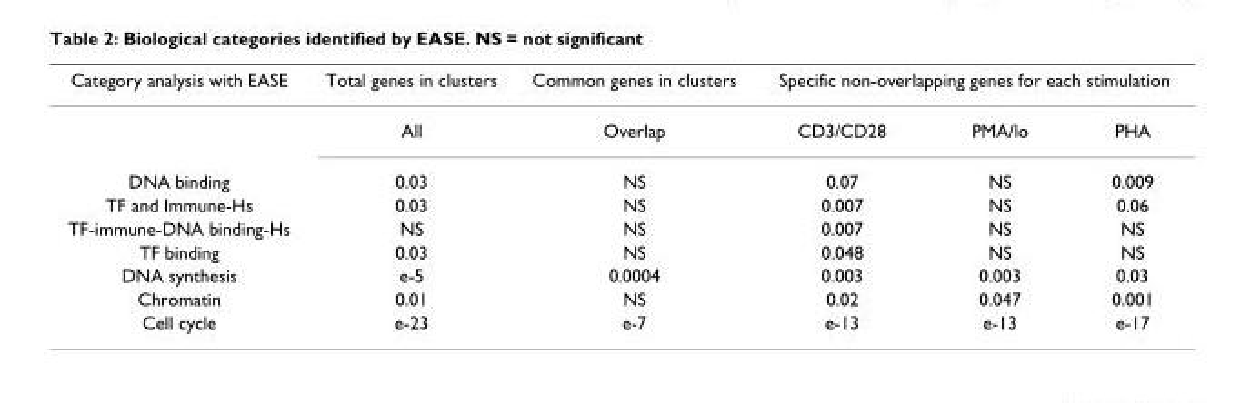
<table><thead><tr><td rowspan="2">Category analysis with EASE</td><td rowspan="2">Total genes in clusters All</td><td rowspan="2">Common genes in clusters Overlap</td><td colspan="3">Specific non-overlapping genes for each stimulation</td></tr><tr><td>CD3/CD28</td><td>PMA/lo</td><td>PHA</td></tr></thead><tbody><tr><td>DNA binding</td><td>0.03</td><td>NS</td><td>0.07</td><td>NS</td><td>0.009</td></tr><tr><td>TF and Immune-Hs</td><td>0.03</td><td>NS</td><td>0.007</td><td>NS</td><td>0.06</td></tr><tr><td>TF-immune-DNA binding-Hs</td><td>NS</td><td>NS</td><td>0.007</td><td>NS</td><td>NS</td></tr><tr><td>TF binding</td><td>0.03</td><td>NS</td><td>0.048</td><td>NS</td><td>NS</td></tr><tr><td>DNA synthesis</td><td>e-5</td><td>0.0004</td><td>0.003</td><td>0.003</td><td>0.03</td></tr><tr><td>Chromatin</td><td>0.01</td><td>NS</td><td>0.02</td><td>0.047</td><td>0.001</td></tr><tr><td>Cell cycle</td><td>e-23</td><td>e-7</td><td>e-13</td><td>e-13</td><td>e-17</td></tr></tbody></table>